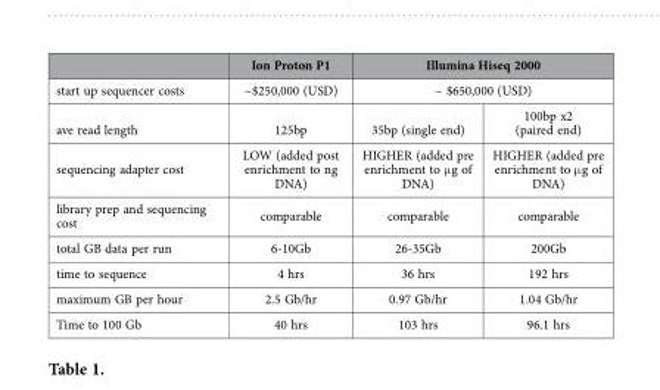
<table><thead><tr><td rowspan="3">start up sequencer costs ave read length</td><td rowspan="3">Ion Proton P1 ~$250,000 (USD) 125bp</td><td rowspan="2" colspan="2">Illumina Hiseq 2000 ~ $650,000 (USD)</td></tr><tr></tr><tr><td>35bp (single end)</td><td>100bp x2 (paired end)</td></tr></thead><tbody><tr><td>sequencing adapter cost</td><td>LOW (added post enrichment to ng DNA)</td><td>HIGHER (added pre enrichment to μ g of DNA)</td><td>HIGHER (added pre enrichment to μ g of DNA)</td></tr><tr><td>library prep and sequencing cost</td><td>comparable</td><td>comparable</td><td>comparable</td></tr><tr><td>total GB data per run</td><td>6-10Gb</td><td>26-35Gb</td><td>200Gb</td></tr><tr><td>time to sequence</td><td>4 hrs</td><td>36 hrs</td><td>192 hrs</td></tr><tr><td>maximum GB per hour</td><td>2.5 Gb/hr</td><td>0.97 Gb/hr</td><td>1.04 Gb/hr</td></tr><tr><td>Time to 100 Gb</td><td>40 hrs</td><td>103 hrs</td><td>96.1 hrs</td></tr></tbody></table>